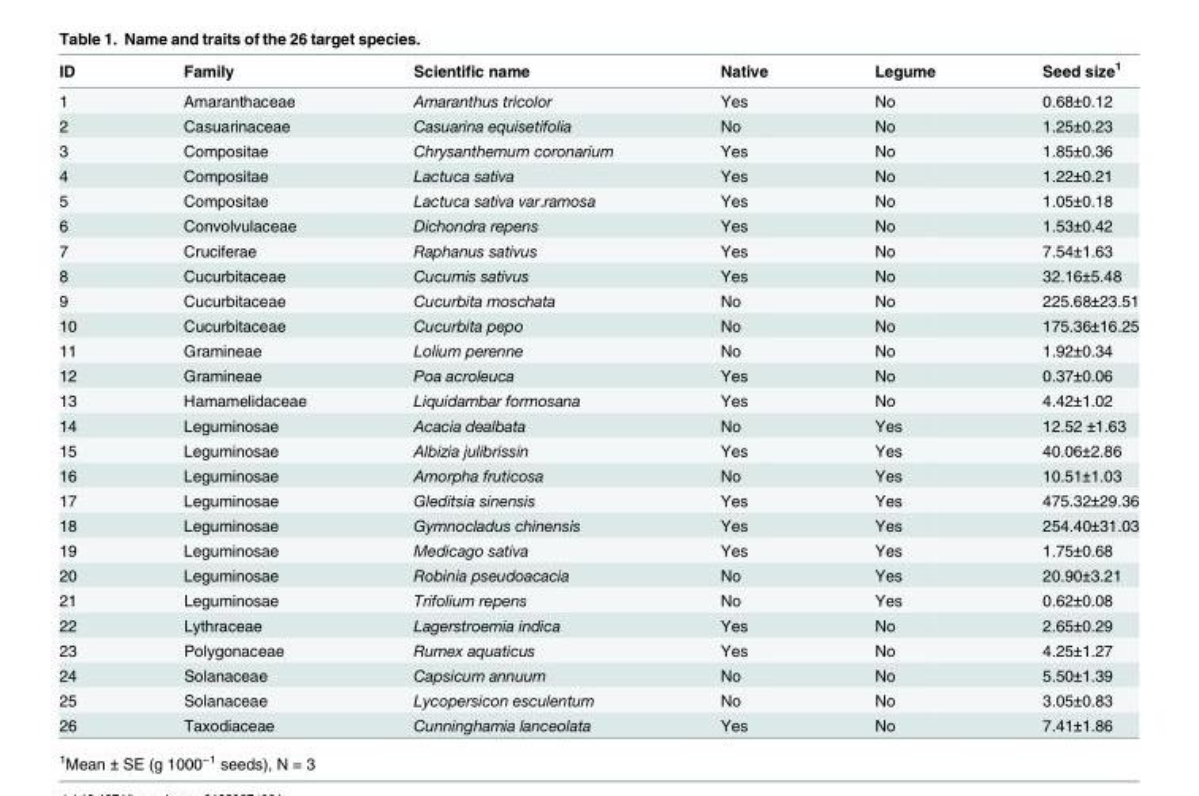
<table><thead><tr><td>ID</td><td>Family</td><td>Scientific name</td><td>Native</td><td>Legume</td><td>Seed size<sup>1</sup></td></tr></thead><tbody><tr><td>1</td><td>Amaranthaceae</td><td>Amaranthus tricolor</td><td>Yes</td><td>No</td><td>0.68±0.12</td></tr><tr><td>2</td><td>Casuarinaceae</td><td>Casuarina equisetifolia</td><td>No</td><td>No</td><td>1.25±0.23</td></tr><tr><td>3</td><td>Compositae</td><td>Chrysanthemum coronarium</td><td>Yes</td><td>No</td><td>1.85±0.36</td></tr><tr><td>4</td><td>Compositae</td><td>Lactuca sativa</td><td>Yes</td><td>No</td><td>1.22±0.21</td></tr><tr><td>5</td><td>Compositae</td><td>Lactuca sativa var.ramosa</td><td>Yes</td><td>No</td><td>1.05±0.18</td></tr><tr><td>6</td><td>Convolvulaceae</td><td>Dichondra repens</td><td>Yes</td><td>No</td><td>1.53±0.42</td></tr><tr><td>7</td><td>Cruciferae</td><td>Raphanus sativus</td><td>Yes</td><td>No</td><td>7.54±1.63</td></tr><tr><td>8</td><td>Cucurbitaceae</td><td>Cucumis sativus</td><td>Yes</td><td>No</td><td>32.16±5.48</td></tr><tr><td>9</td><td>Cucurbitaceae</td><td>Cucurbita moschata</td><td>No</td><td>No</td><td>225.68±23.51</td></tr><tr><td>10</td><td>Cucurbitaceae</td><td>Cucurbita pepo</td><td>No</td><td>No</td><td>175.36±16.25</td></tr><tr><td>11</td><td>Gramineae</td><td>Lolium perenne</td><td>No</td><td>No</td><td>1.92±0.34</td></tr><tr><td>12</td><td>Gramineae</td><td>Poa acroleuca</td><td>Yes</td><td>No</td><td>0.37±0.06</td></tr><tr><td>13</td><td>Hamamelidaceae</td><td>Liquidambar formosana</td><td>Yes</td><td>No</td><td>4.42±1.02</td></tr><tr><td>14</td><td>Leguminosae</td><td>Acacia dealbata</td><td>No</td><td>Yes</td><td>12.52 ±1.63</td></tr><tr><td>15</td><td>Leguminosae</td><td>Albizia julibrissin</td><td>Yes</td><td>Yes</td><td>40.06±2.86</td></tr><tr><td>16</td><td>Leguminosae</td><td>Amorpha fruticosa</td><td>No</td><td>Yes</td><td>10.51±1.03</td></tr><tr><td>17</td><td>Leguminosae</td><td>Gleditsia sinensis</td><td>Yes</td><td>Yes</td><td>475.32±29.36</td></tr><tr><td>18</td><td>Leguminosae</td><td>Gymnocladus chinensis</td><td>Yes</td><td>Yes</td><td>254.40±31.03</td></tr><tr><td>19</td><td>Leguminosae</td><td>Medicago sativa</td><td>Yes</td><td>Yes</td><td>1.75±0.68</td></tr><tr><td>20</td><td>Leguminosae</td><td>Robinia pseudoacacia</td><td>No</td><td>Yes</td><td>20.90±3.21</td></tr><tr><td>21</td><td>Leguminosae</td><td>Trifolium repens</td><td>No</td><td>Yes</td><td>0.62±0.08</td></tr><tr><td>22</td><td>Lythraceae</td><td>Lagerstroemia indica</td><td>Yes</td><td>No</td><td>2.65±0.29</td></tr><tr><td>23</td><td>Polygonaceae</td><td>Rumex aquaticus</td><td>Yes</td><td>No</td><td>4.25±1.27</td></tr><tr><td>24</td><td>Solanaceae</td><td>Capsicum annuum</td><td>No</td><td>No</td><td>5.50±1.39</td></tr><tr><td>25</td><td>Solanaceae</td><td>Lycopersicon esculentum</td><td>No</td><td>No</td><td>3.05±0.83</td></tr><tr><td>26</td><td>Taxodiaceae</td><td>Cunninghamia lanceolata</td><td>Yes</td><td>No</td><td>7.41±1.86</td></tr></tbody></table>